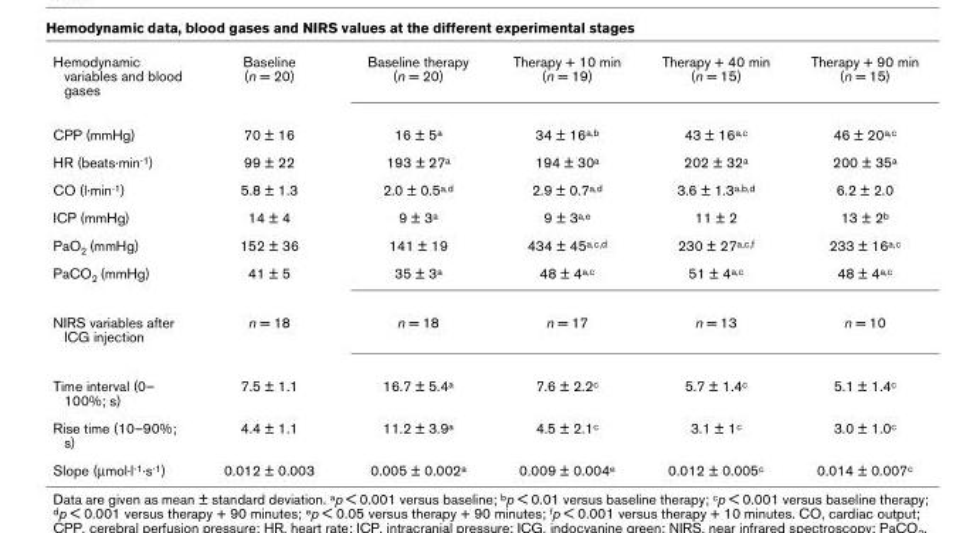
<table><tbody><tr><td>Hemodynamic variables and blood gases</td><td>Baseline (n = 20)</td><td>Baseline therapy (n = 20)</td><td>Therapy + 10 min (n = 19)</td><td>Therapy + 40 min (n = 15)</td><td>Therapy + 90 min (n = 15)</td></tr><tr><td>CPP (mmHg)</td><td>70 ± 16</td><td>16 ± 5a</td><td>34 ± 16a,b</td><td>43 ± 16a,c</td><td>46 ± 20a,c</td></tr><tr><td>HR (beats·min-1)</td><td>99 ± 22</td><td>193 ± 27a</td><td>194 ± 30a</td><td>202 ± 32a</td><td>200 ± 35a</td></tr><tr><td>CO (l·min-1)</td><td>5.8 ± 1.3</td><td>2.0 ± 0.5a,d</td><td>2.9 ± 0.7a,d</td><td>3.6 ± 1.3a,b,d</td><td>6.2 ± 2.0</td></tr><tr><td>ICP (mmHg)</td><td>14 ± 4</td><td>9 ± 3a</td><td>9 ± 3a,e</td><td>11 ± 2</td><td>13 ± 2b</td></tr><tr><td>PaO2 (mmHg)</td><td>152 ± 36</td><td>141 ± 19</td><td>434 ± 45a,c,d</td><td>230 ± 27a,c,f</td><td>233 ± 16a,c</td></tr><tr><td>PaCO2 (mmHg)</td><td>41 ± 5</td><td>35 ± 3a</td><td>48 ± 4a,c</td><td>51 ± 4a,c</td><td>48 ± 4a,c</td></tr><tr><td>NIRS variables after ICG injection</td><td>n = 18</td><td>n = 18</td><td>n = 17</td><td>n = 13</td><td>n = 10</td></tr><tr><td>Time interval (0– 100%; s)</td><td>7.5 ± 1.1</td><td>16.7 ± 5.4a</td><td>7.6 ± 2.2c</td><td>5.7 ± 1.4c</td><td>5.1 ± 1.4c</td></tr><tr><td>Rise time (10–90%; s)</td><td>4.4 ± 1.1</td><td>11.2 ± 3.9a</td><td>4.5 ± 2.1c</td><td>3.1 ± 1c</td><td>3.0 ± 1.0c</td></tr><tr><td>Slope (µmol·l-1·s-1)</td><td>0.012 ± 0.003</td><td>0.005 ± 0.002a</td><td>0.009 ± 0.004e</td><td>0.012 ± 0.005c</td><td>0.014 ± 0.007c</td></tr></tbody></table>